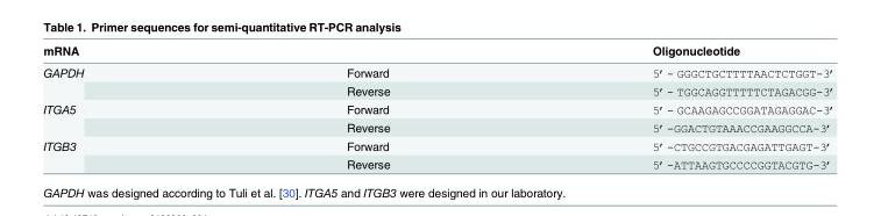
<table><thead><tr><td>mRNA</td><td></td><td>Oligonucleotide</td></tr></thead><tbody><tr><td rowspan="2">GAPDH</td><td>Forward</td><td>5’- GGGCTGCTTTTAACTCTGGT-3’</td></tr><tr><td>Reverse</td><td>5’- TGGCAGGTTTTTCTAGACGG-3’</td></tr><tr><td rowspan="2">ITGA5</td><td>Forward</td><td>5’- GCAAGAGCCGGATAGAGGAC-3’</td></tr><tr><td>Reverse</td><td>5’-GGACTGTAAACCGAAGGCCA-3’</td></tr><tr><td rowspan="2">ITGB3</td><td>Forward</td><td>5’-CTGCCGTGACGAGATTGAGT-3’</td></tr><tr><td>Reverse</td><td>5’-ATTAAGTGCCCCGGTACGTG-3’</td></tr></tbody></table>